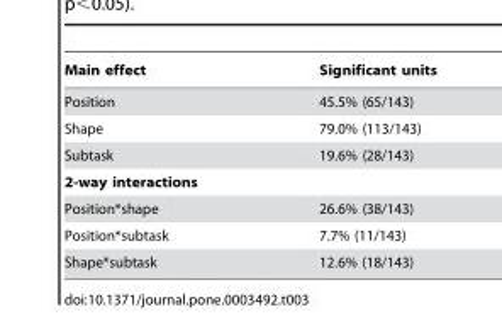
<table><thead><tr><td>Main effect</td><td>Significant units</td></tr></thead><tbody><tr><td>Position</td><td>45.5% (65/143)</td></tr><tr><td>Shape</td><td>79.0% (113/143)</td></tr><tr><td>Subtask</td><td>19.6% (28/143)</td></tr><tr><td colspan="2">2-way interactions</td></tr><tr><td>Position*shape</td><td>26.6% (38/143)</td></tr><tr><td>Position*subtask</td><td>7.7% (11/143)</td></tr><tr><td>Shape*subtask</td><td>12.6% (18/143)</td></tr></tbody></table>